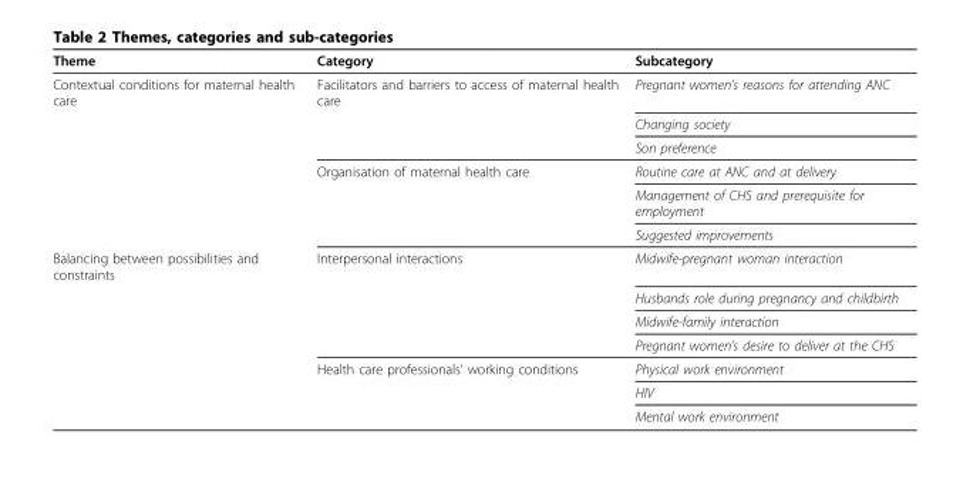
<table><thead><tr><td>Theme</td><td>Category</td><td>Subcategory</td></tr></thead><tbody><tr><td rowspan="6">Contextual conditions for maternal health care</td><td>Facilitators and barriers to access of maternal health care</td><td>Pregnant women’s reasons for attending ANC</td></tr><tr><td></td><td>Changing society</td></tr><tr><td></td><td>Son preference</td></tr><tr><td>Organisation of maternal health care</td><td>Routine care at ANC and at delivery</td></tr><tr><td></td><td>Management of CHS and prerequisite for employment</td></tr><tr><td></td><td>Suggested improvements</td></tr><tr><td rowspan="7">Balancing between possibilities and constraints</td><td>Interpersonal interactions</td><td>Midwife-pregnant woman interaction</td></tr><tr><td></td><td>Husbands role during pregnancy and childbirth</td></tr><tr><td></td><td>Midwife-family interaction</td></tr><tr><td></td><td>Pregnant women’s desire to deliver at the CHS</td></tr><tr><td>Health care professionals’ working conditions</td><td>Physical work environment</td></tr><tr><td></td><td>HIV</td></tr><tr><td></td><td>Mental work environment</td></tr></tbody></table>